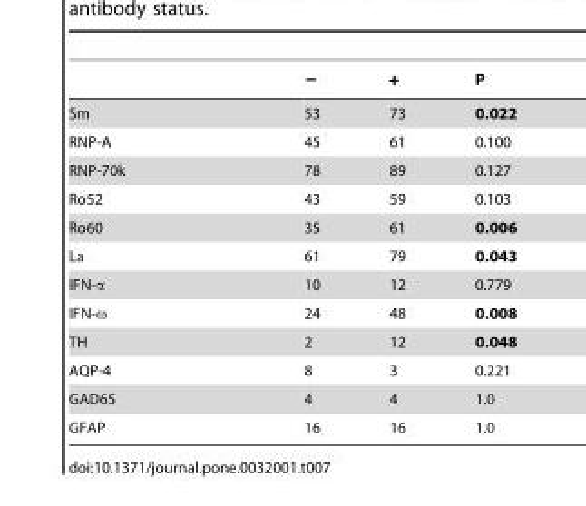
<table><thead><tr><td></td><td>−</td><td>+</td><td>P</td></tr></thead><tbody><tr><td>Sm</td><td>53</td><td>73</td><td>0.022</td></tr><tr><td>RNP-A</td><td>45</td><td>61</td><td>0.100</td></tr><tr><td>RNP-70k</td><td>78</td><td>89</td><td>0.127</td></tr><tr><td>Ro52</td><td>43</td><td>59</td><td>0.103</td></tr><tr><td>Ro60</td><td>35</td><td>61</td><td>0.006</td></tr><tr><td>La</td><td>61</td><td>79</td><td>0.043</td></tr><tr><td>IFN-α</td><td>10</td><td>12</td><td>0.779</td></tr><tr><td>IFN-ω</td><td>24</td><td>48</td><td>0.008</td></tr><tr><td>TH</td><td>2</td><td>12</td><td>0.048</td></tr><tr><td>AQP-4</td><td>8</td><td>3</td><td>0.221</td></tr><tr><td>GAD65</td><td>4</td><td>4</td><td>1.0</td></tr><tr><td>GFAP</td><td>16</td><td>16</td><td>1.0</td></tr></tbody></table>